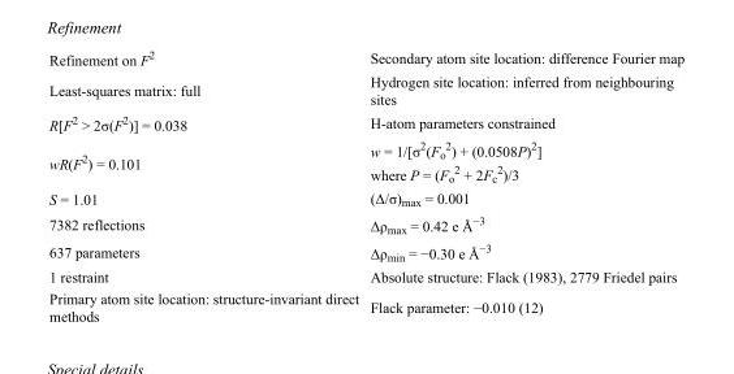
<table><tbody><tr><td>Refinement on F<sup>2</sup></td><td>Secondary atom site location: difference Fourier map</td></tr><tr><td>Least-squares matrix: full</td><td>Hydrogen site location: inferred from neighbouring sites</td></tr><tr><td>R[F<sup>2</sup> &gt; 2σ(F<sup>2</sup>)] = 0.038</td><td>H-atom parameters constrained</td></tr><tr><td>wR(F<sup>2</sup>) = 0.101</td><td>w = 1/[σ<sup>2</sup>(F<sub>o</sub> <sup>2</sup>) + (0.0508P)<sup>2</sup>] where P = (F<sub>o</sub> <sup>2</sup> + 2F<sub>c</sub> <sup>2</sup>)/3</td></tr><tr><td>S = 1.01</td><td>(Δ/σ)<sub>max</sub> = 0.001</td></tr><tr><td>7382 reflections</td><td>Δρ<sub>max</sub> = 0.42 e Å<sup>−3</sup></td></tr><tr><td>637 parameters</td><td>Δρ<sub>min</sub> = −0.30 e Å<sup>−3</sup></td></tr><tr><td>1 restraint</td><td>Absolute structure: Flack (1983), 2779 Friedel pairs</td></tr><tr><td>Primary atom site location: structure-invariant direct methods</td><td>Flack parameter: −0.010 (12)</td></tr></tbody></table>